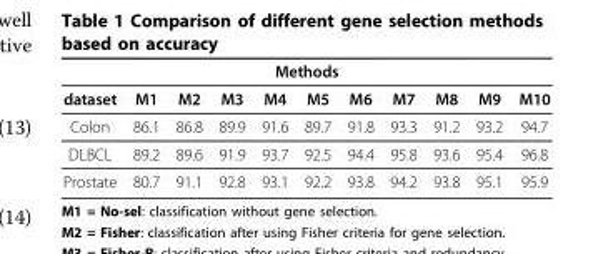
<table><thead><tr><td colspan="11">Methods</td></tr><tr><td>dataset</td><td>M1</td><td>M2</td><td>M3</td><td>M4</td><td>M5</td><td>M6</td><td>M7</td><td>M8</td><td>M9</td><td>M10</td></tr></thead><tbody><tr><td>Colon</td><td>86.1</td><td>86.8</td><td>89.9</td><td>91.6</td><td>89.7</td><td>91.8</td><td>93.3</td><td>91.2</td><td>93.2</td><td>94.7</td></tr><tr><td>DLBCL</td><td>89.2</td><td>89.6</td><td>91.9</td><td>93.7</td><td>92.5</td><td>94.4</td><td>95.8</td><td>93.6</td><td>95.4</td><td>96.8</td></tr><tr><td>Prostate</td><td>80.7</td><td>91.1</td><td>92.8</td><td>93.1</td><td>92.2</td><td>93.8</td><td>94.2</td><td>93.8</td><td>95.1</td><td>95.9</td></tr></tbody></table>